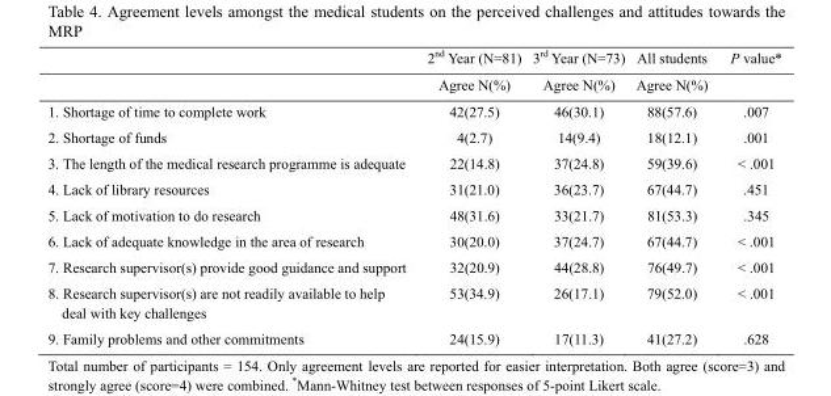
<table><thead><tr><td rowspan="2"></td><td rowspan="2">2nd Year (N=81) Agree N(%)</td><td rowspan="2">3rd Year (N=73) Agree N(%)</td><td rowspan="2">All students Agree N(%)</td><td rowspan="2">P value*</td></tr><tr></tr></thead><tbody><tr><td>1. Shortage of time to complete work</td><td>42(27.5)</td><td>46(30.1)</td><td>88(57.6)</td><td>.007</td></tr><tr><td>2. Shortage of funds</td><td>4(2.7)</td><td>14(9.4)</td><td>18(12.1)</td><td>.001</td></tr><tr><td>3. The length of the medical research programme is adequate</td><td>22(14.8)</td><td>37(24.8)</td><td>59(39.6)</td><td>&lt; .001</td></tr><tr><td>4. Lack of library resources</td><td>31(21.0)</td><td>36(23.7)</td><td>67(44.7)</td><td>.451</td></tr><tr><td>5. Lack of motivation to do research</td><td>48(31.6)</td><td>33(21.7)</td><td>81(53.3)</td><td>.345</td></tr><tr><td>6. Lack of adequate knowledge in the area of research</td><td>30(20.0)</td><td>37(24.7)</td><td>67(44.7)</td><td>&lt; .001</td></tr><tr><td>7. Research supervisor(s) provide good guidance and support</td><td>32(20.9)</td><td>44(28.8)</td><td>76(49.7)</td><td>&lt; .001</td></tr><tr><td>8. Research supervisor(s) are not readily available to help deal with key challenges</td><td>53(34.9)</td><td>26(17.1)</td><td>79(52.0)</td><td>&lt; .001</td></tr><tr><td>9. Family problems and other commitments</td><td>24(15.9)</td><td>17(11.3)</td><td>41(27.2)</td><td>.628</td></tr></tbody></table>